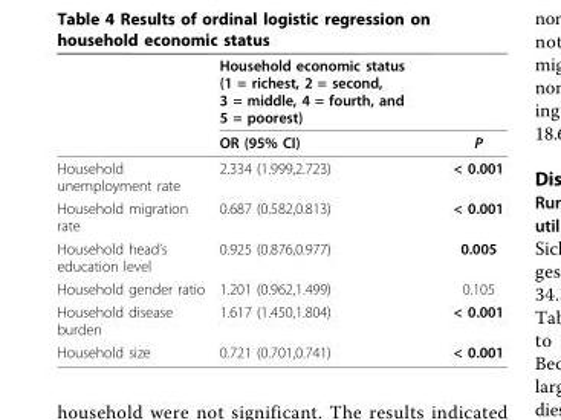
<table><thead><tr><td></td><td>Household economic status (1 = richest, 2 = second, 3 = middle, 4 = fourth, and 5 = poorest)</td><td></td></tr></thead><tbody><tr><td></td><td>OR (95% CI)</td><td>P</td></tr><tr><td>Household unemployment rate</td><td>2.334 (1.999,2.723)</td><td>&lt; 0.001</td></tr><tr><td>Household migration rate</td><td>0.687 (0.582,0.813)</td><td>&lt; 0.001</td></tr><tr><td>Household head’s education level</td><td>0.925 (0.876,0.977)</td><td>0.005</td></tr><tr><td>Household gender ratio</td><td>1.201 (0.962,1.499)</td><td>0.105</td></tr><tr><td>Household disease burden</td><td>1.617 (1.450,1.804)</td><td>&lt; 0.001</td></tr><tr><td>Household size</td><td>0.721 (0.701,0.741)</td><td>&lt; 0.001</td></tr></tbody></table>